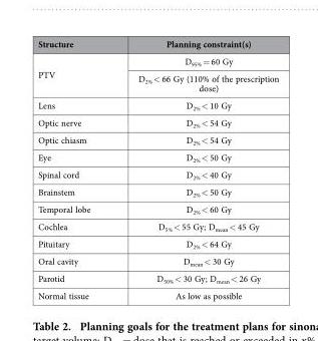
<table><thead><tr><td>Structure</td><td>Planning constraint(s)</td></tr></thead><tbody><tr><td rowspan="2">PTV</td><td>D<sub>95%</sub> = 60 Gy</td></tr><tr><td>D<sub>2%</sub> &lt; 66 Gy (110% of the prescription dose)</td></tr><tr><td>Lens</td><td>D<sub>2%</sub> &lt; 10 Gy</td></tr><tr><td>Optic nerve</td><td>D<sub>2%</sub> &lt; 54 Gy</td></tr><tr><td>Optic chiasm</td><td>D<sub>2%</sub> &lt; 54 Gy</td></tr><tr><td>Eye</td><td>D<sub>2%</sub> &lt; 50 Gy</td></tr><tr><td>Spinal cord</td><td>D<sub>2%</sub> &lt; 40 Gy</td></tr><tr><td>Brainstem</td><td>D<sub>2%</sub> &lt; 50 Gy</td></tr><tr><td>Temporal lobe</td><td>D<sub>2%</sub> &lt; 60 Gy</td></tr><tr><td>Cochlea</td><td>D<sub>5%</sub> &lt; 55 Gy; D<sub>mean</sub> &lt; 45 Gy</td></tr><tr><td>Pituitary</td><td>D<sub>2%</sub> &lt; 64 Gy</td></tr><tr><td>Oral cavity</td><td>D<sub>mean</sub> &lt; 30 Gy</td></tr><tr><td>Parotid</td><td>D<sub>50%</sub> &lt; 30 Gy; D<sub>mean</sub> &lt; 26 Gy</td></tr><tr><td>Normal tissue</td><td>As low as possible</td></tr></tbody></table>